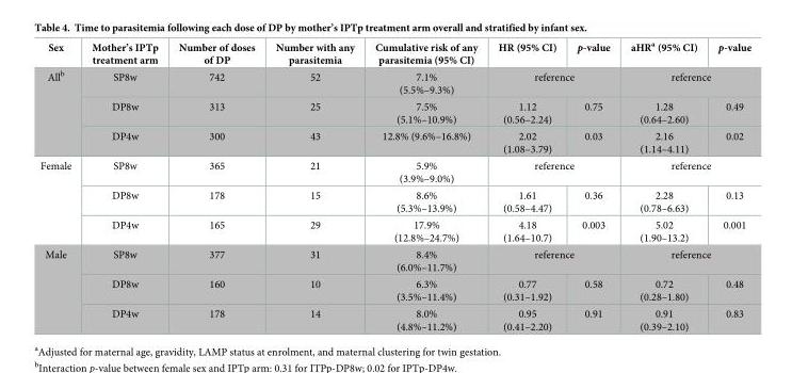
<table><thead><tr><td>Sex</td><td>Mother’s IPTp treatment arm</td><td>Number of doses of DP</td><td>Number with any parasitemia</td><td>Cumulative risk of any parasitemia (95% CI)</td><td>HR (95% CI)</td><td>p-value</td><td>aHR<sup>a</sup> (95% CI)</td><td>p-value</td></tr></thead><tbody><tr><td rowspan="3">All<sup>b</sup></td><td>SP8w</td><td>742</td><td>52</td><td>7.1% (5.5%–9.3%)</td><td colspan="2">reference</td><td colspan="2">reference</td></tr><tr><td>DP8w</td><td>313</td><td>25</td><td>7.5% (5.1%–10.9%)</td><td>1.12 (0.56–2.24)</td><td>0.75</td><td>1.28 (0.64–2.60)</td><td>0.49</td></tr><tr><td>DP4w</td><td>300</td><td>43</td><td>12.8% (9.6%–16.8%)</td><td>2.02 (1.08–3.79)</td><td>0.03</td><td>2.16 (1.14–4.11)</td><td>0.02</td></tr><tr><td rowspan="3">Female</td><td>SP8w</td><td>365</td><td>21</td><td>5.9% (3.9%–9.0%)</td><td colspan="2">reference</td><td colspan="2">reference</td></tr><tr><td>DP8w</td><td>178</td><td>15</td><td>8.6% (5.3%–13.9%)</td><td>1.61 (0.58–4.47)</td><td>0.36</td><td>2.28 (0.78–6.63)</td><td>0.13</td></tr><tr><td>DP4w</td><td>165</td><td>29</td><td>17.9% (12.8%–24.7%)</td><td>4.18 (1.64–10.7)</td><td>0.003</td><td>5.02 (1.90–13.2)</td><td>0.001</td></tr><tr><td rowspan="3">Male</td><td>SP8w</td><td>377</td><td>31</td><td>8.4% (6.0%–11.7%)</td><td colspan="2">reference</td><td colspan="2">reference</td></tr><tr><td>DP8w</td><td>160</td><td>10</td><td>6.3% (3.5%–11.4%)</td><td>0.77 (0.31–1.92)</td><td>0.58</td><td>0.72 (0.28–1.80)</td><td>0.48</td></tr><tr><td>DP4w</td><td>178</td><td>14</td><td>8.0% (4.8%–11.2%)</td><td>0.95 (0.41–2.20)</td><td>0.91</td><td>0.91 (0.39–2.10)</td><td>0.83</td></tr></tbody></table>